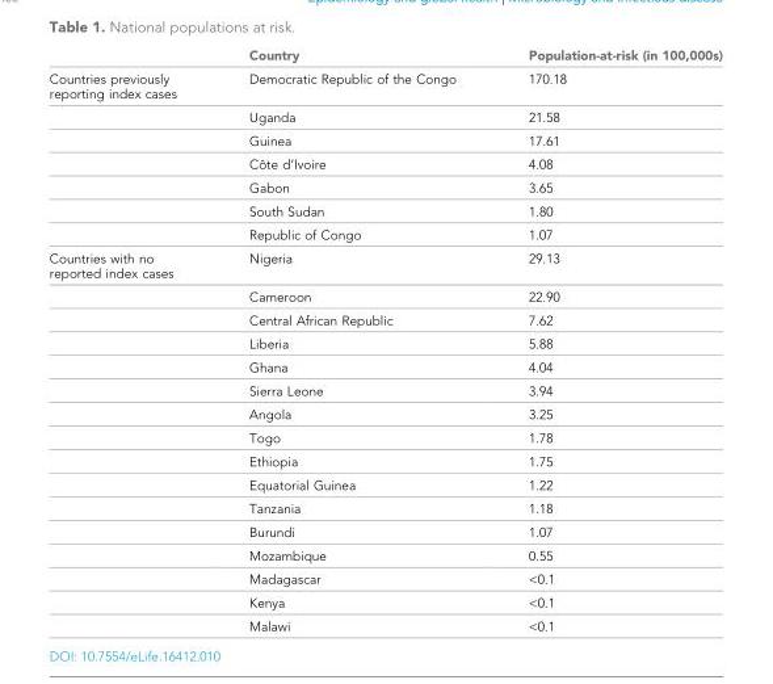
<table><thead><tr><td></td><td>Country</td><td>Population-at-risk (in 100,000s)</td></tr></thead><tbody><tr><td rowspan="7">Countries previously reporting index cases</td><td>Democratic Republic of the Congo</td><td>170.18</td></tr><tr><td>Uganda</td><td>21.58</td></tr><tr><td>Guinea</td><td>17.61</td></tr><tr><td>Coˆ te d’Ivoire</td><td>4.08</td></tr><tr><td>Gabon</td><td>3.65</td></tr><tr><td>South Sudan</td><td>1.80</td></tr><tr><td>Republic of Congo</td><td>1.07</td></tr><tr><td rowspan="16">Countries with no reported index cases</td><td>Nigeria</td><td>29.13</td></tr><tr><td>Cameroon</td><td>22.90</td></tr><tr><td>Central African Republic</td><td>7.62</td></tr><tr><td>Liberia</td><td>5.88</td></tr><tr><td>Ghana</td><td>4.04</td></tr><tr><td>Sierra Leone</td><td>3.94</td></tr><tr><td>Angola</td><td>3.25</td></tr><tr><td>Togo</td><td>1.78</td></tr><tr><td>Ethiopia</td><td>1.75</td></tr><tr><td>Equatorial Guinea</td><td>1.22</td></tr><tr><td>Tanzania</td><td>1.18</td></tr><tr><td>Burundi</td><td>1.07</td></tr><tr><td>Mozambique</td><td>0.55</td></tr><tr><td>Madagascar</td><td>&lt;0.1</td></tr><tr><td>Kenya</td><td>&lt;0.1</td></tr><tr><td>Malawi</td><td>&lt;0.1</td></tr></tbody></table>